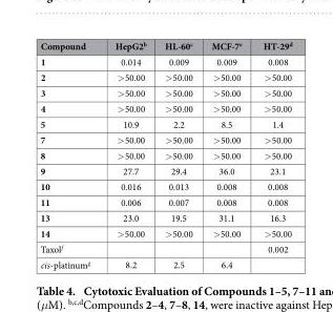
<table><thead><tr><td>Compound</td><td>HepG2<sup>b</sup></td><td>HL-60<sup>c</sup></td><td>MCF-7<sup>e</sup></td><td>HT-29<sup>d</sup></td></tr></thead><tbody><tr><td>1</td><td>0.014</td><td>0.009</td><td>0.009</td><td>0.008</td></tr><tr><td>2</td><td>&gt; 50.00</td><td>&gt; 50.00</td><td>&gt; 50.00</td><td>&gt; 50.00</td></tr><tr><td>3</td><td>&gt; 50.00</td><td>&gt; 50.00</td><td>&gt; 50.00</td><td>&gt; 50.00</td></tr><tr><td>4</td><td>&gt; 50.00</td><td>&gt; 50.00</td><td>&gt; 50.00</td><td>&gt; 50.00</td></tr><tr><td>5</td><td>10.9</td><td>2.2</td><td>8.5</td><td>1.4</td></tr><tr><td>7</td><td>&gt; 50.00</td><td>&gt; 50.00</td><td>&gt; 50.00</td><td>&gt; 50.00</td></tr><tr><td>8</td><td>&gt; 50.00</td><td>&gt; 50.00</td><td>&gt; 50.00</td><td>&gt; 50.00</td></tr><tr><td>9</td><td>27.7</td><td>29.4</td><td>36.0</td><td>23.1</td></tr><tr><td>10</td><td>0.016</td><td>0.013</td><td>0.008</td><td>0.008</td></tr><tr><td>11</td><td>0.006</td><td>0.007</td><td>0.008</td><td>0.008</td></tr><tr><td>13</td><td>23.0</td><td>19.5</td><td>31.1</td><td>16.3</td></tr><tr><td>14</td><td>&gt; 50.00</td><td>&gt; 50.00</td><td>&gt; 50.00</td><td>&gt; 50.00</td></tr><tr><td>Taxol<sup>f</sup></td><td></td><td></td><td></td><td>0.002</td></tr><tr><td>cis-platinum<sup>g</sup></td><td>8.2</td><td>2.5</td><td>6.4</td><td></td></tr></tbody></table>